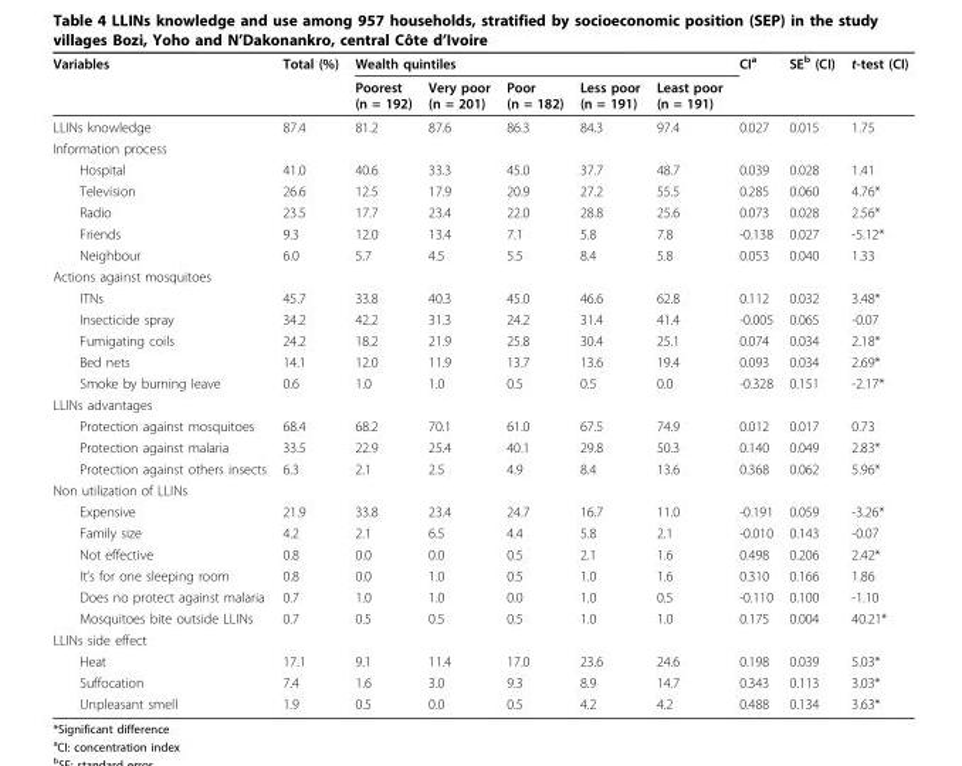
<table><thead><tr><td rowspan="2">Variables</td><td rowspan="2">Total (%)</td><td colspan="5">Wealth quintiles</td><td rowspan="2">CI<sup>a</sup></td><td rowspan="2">SE<sup>b</sup> (CI)</td><td rowspan="2">t-test (CI)</td></tr><tr><td>Poorest (n = 192)</td><td>Very poor (n = 201)</td><td>Poor (n = 182)</td><td>Less poor (n = 191)</td><td>Least poor (n = 191)</td></tr></thead><tbody><tr><td>LLINs knowledge</td><td>87.4</td><td>81.2</td><td>87.6</td><td>86.3</td><td>84.3</td><td>97.4</td><td>0.027</td><td>0.015</td><td>1.75</td></tr><tr><td colspan="10">Information process</td></tr><tr><td>Hospital</td><td>41.0</td><td>40.6</td><td>33.3</td><td>45.0</td><td>37.7</td><td>48.7</td><td>0.039</td><td>0.028</td><td>1.41</td></tr><tr><td>Television</td><td>26.6</td><td>12.5</td><td>17.9</td><td>20.9</td><td>27.2</td><td>55.5</td><td>0.285</td><td>0.060</td><td>4.76*</td></tr><tr><td>Radio</td><td>23.5</td><td>17.7</td><td>23.4</td><td>22.0</td><td>28.8</td><td>25.6</td><td>0.073</td><td>0.028</td><td>2.56*</td></tr><tr><td>Friends</td><td>9.3</td><td>12.0</td><td>13.4</td><td>7.1</td><td>5.8</td><td>7.8</td><td>-0.138</td><td>0.027</td><td>-5.12*</td></tr><tr><td>Neighbour</td><td>6.0</td><td>5.7</td><td>4.5</td><td>5.5</td><td>8.4</td><td>5.8</td><td>0.053</td><td>0.040</td><td>1.33</td></tr><tr><td colspan="10">Actions against mosquitoes</td></tr><tr><td>ITNs</td><td>45.7</td><td>33.8</td><td>40.3</td><td>45.0</td><td>46.6</td><td>62.8</td><td>0.112</td><td>0.032</td><td>3.48*</td></tr><tr><td>Insecticide spray</td><td>34.2</td><td>42.2</td><td>31.3</td><td>24.2</td><td>31.4</td><td>41.4</td><td>-0.005</td><td>0.065</td><td>-0.07</td></tr><tr><td>Fumigating coils</td><td>24.2</td><td>18.2</td><td>21.9</td><td>25.8</td><td>30.4</td><td>25.1</td><td>0.074</td><td>0.034</td><td>2.18*</td></tr><tr><td>Bed nets</td><td>14.1</td><td>12.0</td><td>11.9</td><td>13.7</td><td>13.6</td><td>19.4</td><td>0.093</td><td>0.034</td><td>2.69*</td></tr><tr><td>Smoke by burning leave</td><td>0.6</td><td>1.0</td><td>1.0</td><td>0.5</td><td>0.5</td><td>0.0</td><td>-0.328</td><td>0.151</td><td>-2.17*</td></tr><tr><td colspan="10">LLINs advantages</td></tr><tr><td>Protection against mosquitoes</td><td>68.4</td><td>68.2</td><td>70.1</td><td>61.0</td><td>67.5</td><td>74.9</td><td>0.012</td><td>0.017</td><td>0.73</td></tr><tr><td>Protection against malaria</td><td>33.5</td><td>22.9</td><td>25.4</td><td>40.1</td><td>29.8</td><td>50.3</td><td>0.140</td><td>0.049</td><td>2.83*</td></tr><tr><td>Protection against others insects</td><td>6.3</td><td>2.1</td><td>2.5</td><td>4.9</td><td>8.4</td><td>13.6</td><td>0.368</td><td>0.062</td><td>5.96*</td></tr><tr><td colspan="10">Non utilization of LLINs</td></tr><tr><td>Expensive</td><td>21.9</td><td>33.8</td><td>23.4</td><td>24.7</td><td>16.7</td><td>11.0</td><td>-0.191</td><td>0.059</td><td>-3.26*</td></tr><tr><td>Family size</td><td>4.2</td><td>2.1</td><td>6.5</td><td>4.4</td><td>5.8</td><td>2.1</td><td>-0.010</td><td>0.143</td><td>-0.07</td></tr><tr><td>Not effective</td><td>0.8</td><td>0.0</td><td>0.0</td><td>0.5</td><td>2.1</td><td>1.6</td><td>0.498</td><td>0.206</td><td>2.42*</td></tr><tr><td>It’s for one sleeping room</td><td>0.8</td><td>0.0</td><td>1.0</td><td>0.5</td><td>1.0</td><td>1.6</td><td>0.310</td><td>0.166</td><td>1.86</td></tr><tr><td>Does no protect against malaria</td><td>0.7</td><td>1.0</td><td>1.0</td><td>0.0</td><td>1.0</td><td>0.5</td><td>-0.110</td><td>0.100</td><td>-1.10</td></tr><tr><td>Mosquitoes bite outside LLINs</td><td>0.7</td><td>0.5</td><td>0.5</td><td>0.5</td><td>1.0</td><td>1.0</td><td>0.175</td><td>0.004</td><td>40.21*</td></tr><tr><td colspan="10">LLINs side effect</td></tr><tr><td>Heat</td><td>17.1</td><td>9.1</td><td>11.4</td><td>17.0</td><td>23.6</td><td>24.6</td><td>0.198</td><td>0.039</td><td>5.03*</td></tr><tr><td>Suffocation</td><td>7.4</td><td>1.6</td><td>3.0</td><td>9.3</td><td>8.9</td><td>14.7</td><td>0.343</td><td>0.113</td><td>3.03*</td></tr><tr><td>Unpleasant smell</td><td>1.9</td><td>0.5</td><td>0.0</td><td>0.5</td><td>4.2</td><td>4.2</td><td>0.488</td><td>0.134</td><td>3.63*</td></tr></tbody></table>